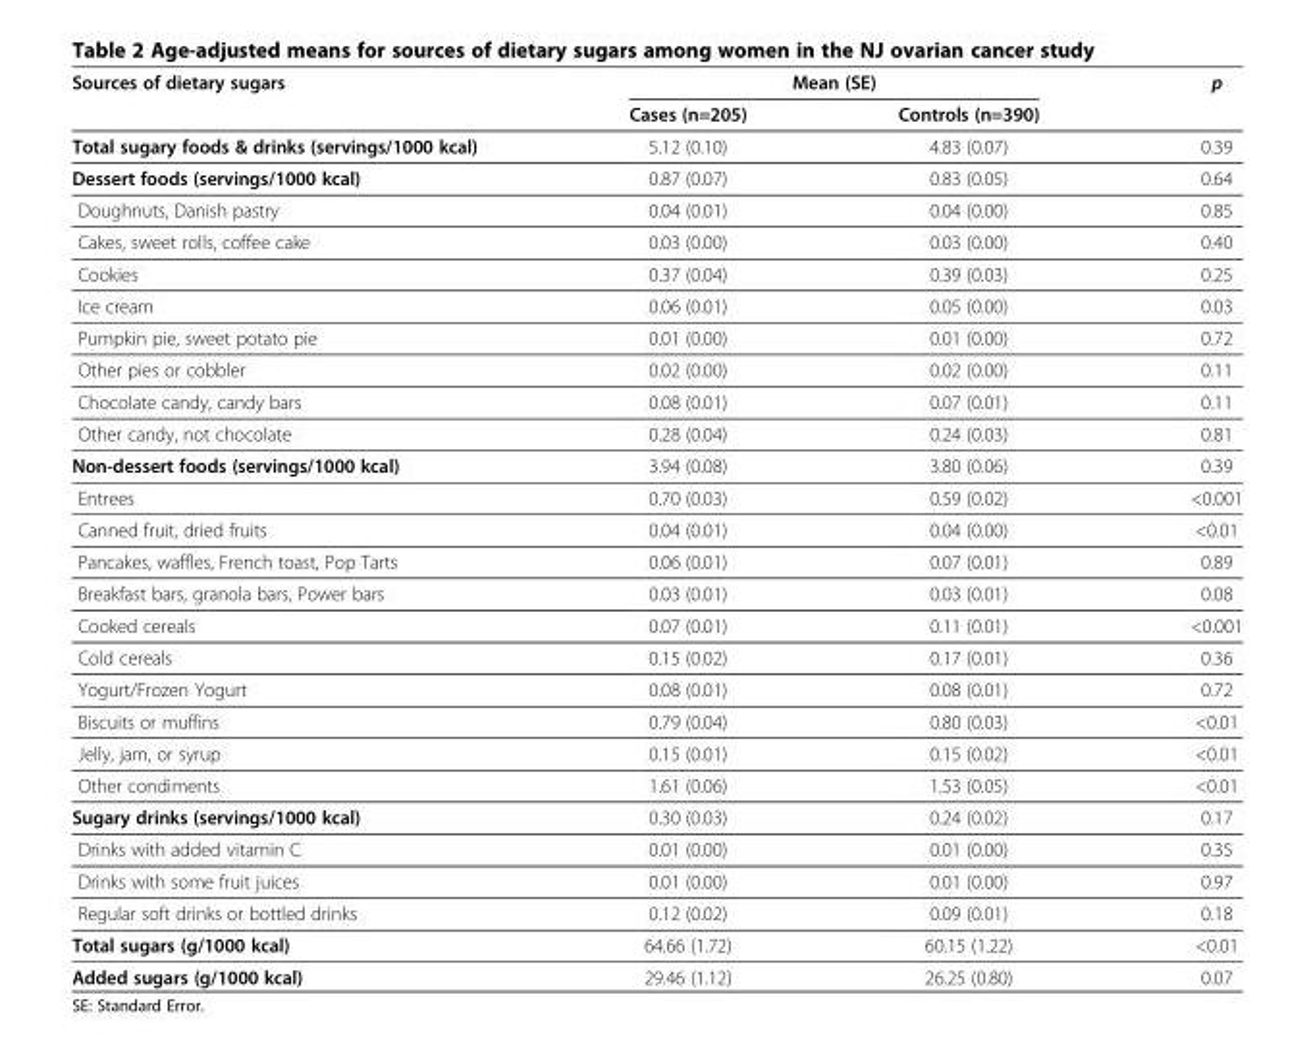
<table><thead><tr><td rowspan="2">Sources of dietary sugars</td><td colspan="2">Mean (SE)</td><td rowspan="2">p</td></tr><tr><td>Cases (n=205)</td><td>Controls (n=390)</td></tr></thead><tbody><tr><td>Total sugary foods &amp; drinks (servings/1000 kcal)</td><td>5.12 (0.10)</td><td>4.83 (0.07)</td><td>0.39</td></tr><tr><td>Dessert foods (servings/1000 kcal)</td><td>0.87 (0.07)</td><td>0.83 (0.05)</td><td>0.64</td></tr><tr><td>Doughnuts, Danish pastry</td><td>0.04 (0.01)</td><td>0.04 (0.00)</td><td>0.85</td></tr><tr><td>Cakes, sweet rolls, coffee cake</td><td>0.03 (0.00)</td><td>0.03 (0.00)</td><td>0.40</td></tr><tr><td>Cookies</td><td>0.37 (0.04)</td><td>0.39 (0.03)</td><td>0.25</td></tr><tr><td>Ice cream</td><td>0.06 (0.01)</td><td>0.05 (0.00)</td><td>0.03</td></tr><tr><td>Pumpkin pie, sweet potato pie</td><td>0.01 (0.00)</td><td>0.01 (0.00)</td><td>0.72</td></tr><tr><td>Other pies or cobbler</td><td>0.02 (0.00)</td><td>0.02 (0.00)</td><td>0.11</td></tr><tr><td>Chocolate candy, candy bars</td><td>0.08 (0.01)</td><td>0.07 (0.01)</td><td>0.11</td></tr><tr><td>Other candy, not chocolate</td><td>0.28 (0.04)</td><td>0.24 (0.03)</td><td>0.81</td></tr><tr><td>Non-dessert foods (servings/1000 kcal)</td><td>3.94 (0.08)</td><td>3.80 (0.06)</td><td>0.39</td></tr><tr><td>Entrees</td><td>0.70 (0.03)</td><td>0.59 (0.02)</td><td>&lt;0.001</td></tr><tr><td>Canned fruit, dried fruits</td><td>0.04 (0.01)</td><td>0.04 (0.00)</td><td>&lt;0.01</td></tr><tr><td>Pancakes, waffles, French toast, Pop Tarts</td><td>0.06 (0.01)</td><td>0.07 (0.01)</td><td>0.89</td></tr><tr><td>Breakfast bars, granola bars, Power bars</td><td>0.03 (0.01)</td><td>0.03 (0.01)</td><td>0.08</td></tr><tr><td>Cooked cereals</td><td>0.07 (0.01)</td><td>0.11 (0.01)</td><td>&lt;0.001</td></tr><tr><td>Cold cereals</td><td>0.15 (0.02)</td><td>0.17 (0.01)</td><td>0.36</td></tr><tr><td>Yogurt/Frozen Yogurt</td><td>0.08 (0.01)</td><td>0.08 (0.01)</td><td>0.72</td></tr><tr><td>Biscuits or muffins</td><td>0.79 (0.04)</td><td>0.80 (0.03)</td><td>&lt;0.01</td></tr><tr><td>Jelly, jam, or syrup</td><td>0.15 (0.01)</td><td>0.15 (0.02)</td><td>&lt;0.01</td></tr><tr><td>Other condiments</td><td>1.61 (0.06)</td><td>1.53 (0.05)</td><td>&lt;0.01</td></tr><tr><td>Sugary drinks (servings/1000 kcal)</td><td>0.30 (0.03)</td><td>0.24 (0.02)</td><td>0.17</td></tr><tr><td>Drinks with added vitamin C</td><td>0.01 (0.00)</td><td>0.01 (0.00)</td><td>0.35</td></tr><tr><td>Drinks with some fruit juices</td><td>0.01 (0.00)</td><td>0.01 (0.00)</td><td>0.97</td></tr><tr><td>Regular soft drinks or bottled drinks</td><td>0.12 (0.02)</td><td>0.09 (0.01)</td><td>0.18</td></tr><tr><td>Total sugars (g/1000 kcal)</td><td>64.66 (1.72)</td><td>60.15 (1.22)</td><td>&lt;0.01</td></tr><tr><td>Added sugars (g/1000 kcal)</td><td>29.46 (1.12)</td><td>26.25 (0.80)</td><td>0.07</td></tr></tbody></table>